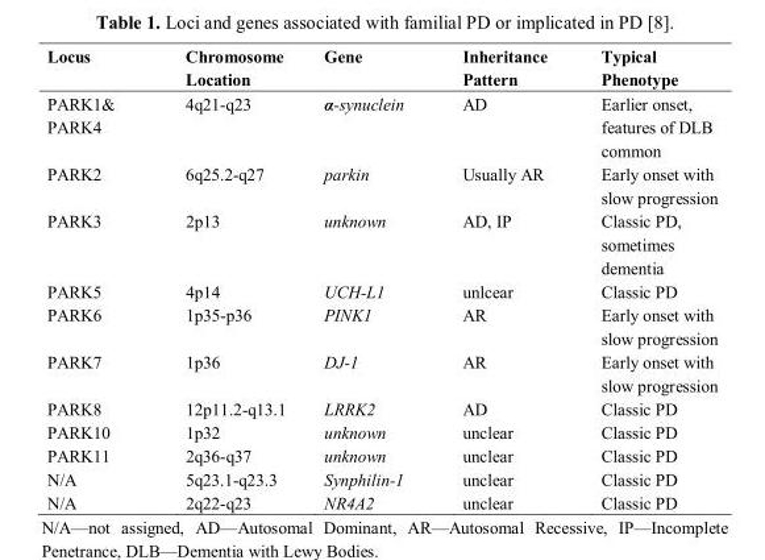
<table><thead><tr><td>Locus</td><td>Chromosome Location</td><td>Gene</td><td>Inheritance Pattern</td><td>Typical Phenotype</td></tr></thead><tbody><tr><td>PARK1&amp; PARK4</td><td>4q21-q23</td><td>α-synuclein</td><td>AD</td><td>Earlier onset, features of DLB common</td></tr><tr><td>PARK2</td><td>6q25.2-q27</td><td>parkin</td><td>Usually AR</td><td>Early onset with slow progression</td></tr><tr><td>PARK3</td><td>2p13</td><td>unknown</td><td>AD, IP</td><td>Classic PD, sometimes dementia</td></tr><tr><td>PARK5</td><td>4p14</td><td>UCH-L1</td><td>unlcear</td><td>Classic PD</td></tr><tr><td>PARK6</td><td>1p35-p36</td><td>PINK1</td><td>AR</td><td>Early onset with slow progression</td></tr><tr><td>PARK7</td><td>1p36</td><td>DJ-1</td><td>AR</td><td>Early onset with slow progression</td></tr><tr><td>PARK8</td><td>12p11.2-q13.1</td><td>LRRK2</td><td>AD</td><td>Classic PD</td></tr><tr><td>PARK10</td><td>1p32</td><td>unknown</td><td>unclear</td><td>Classic PD</td></tr><tr><td>PARK11</td><td>2q36-q37</td><td>unknown</td><td>unclear</td><td>Classic PD</td></tr><tr><td>N/A</td><td>5q23.1-q23.3</td><td>Synphilin-1</td><td>unclear</td><td>Classic PD</td></tr><tr><td>N/A</td><td>2q22-q23</td><td>NR4A2</td><td>unclear</td><td>Classic PD</td></tr></tbody></table>